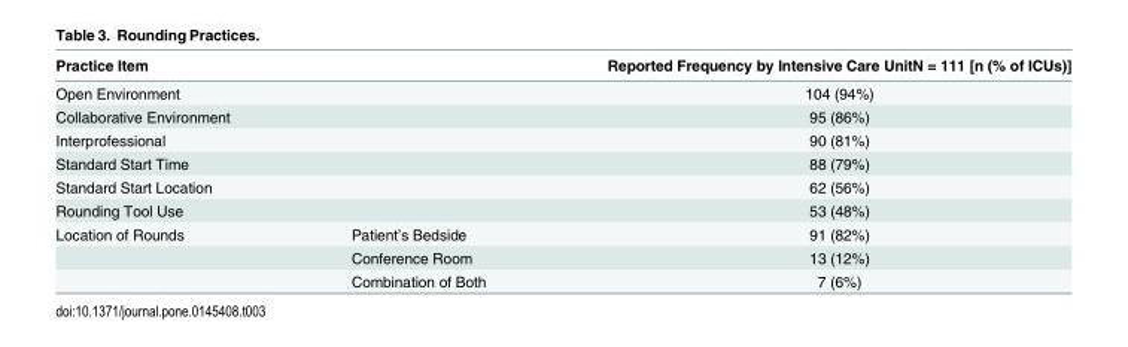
<table><thead><tr><td colspan="2">Practice Item</td><td rowspan="2">Reported Frequency by Intensive Care UnitN = 111 [n (% of ICUs)] 104 (94%)</td></tr><tr><td>Open Environment</td><td></td></tr></thead><tbody><tr><td>Collaborative Environment</td><td></td><td>95 (86%)</td></tr><tr><td>Interprofessional</td><td></td><td>90 (81%)</td></tr><tr><td>Standard Start Time</td><td></td><td>88 (79%)</td></tr><tr><td>Standard Start Location</td><td></td><td>62 (56%)</td></tr><tr><td>Rounding Tool Use</td><td></td><td>53 (48%)</td></tr><tr><td rowspan="3">Location of Rounds</td><td>Patient’s Bedside</td><td>91 (82%)</td></tr><tr><td>Conference Room</td><td>13 (12%)</td></tr><tr><td>Combination of Both</td><td>7 (6%)</td></tr></tbody></table>